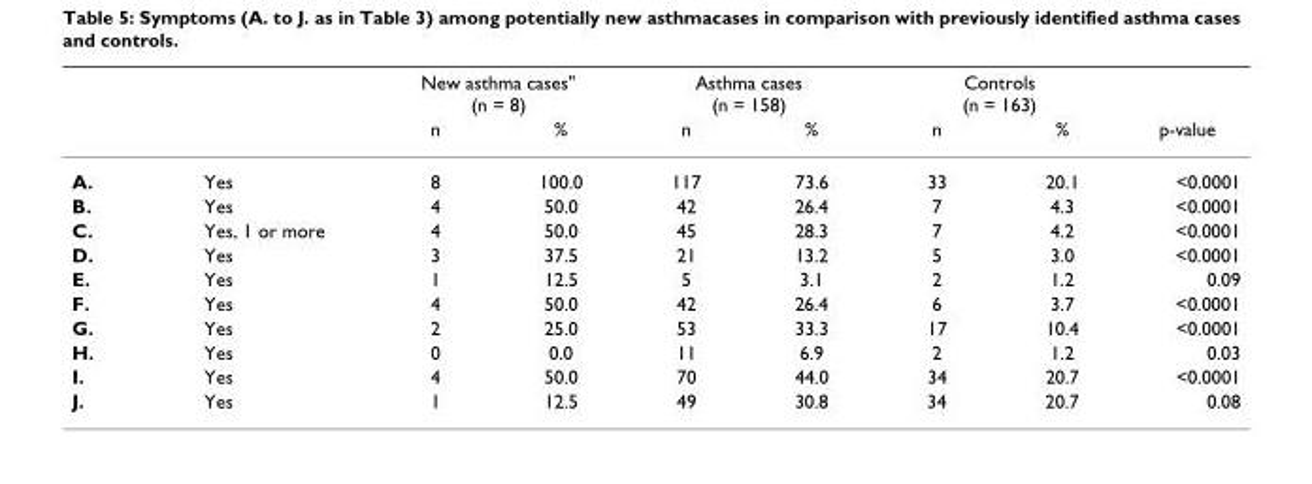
<table><thead><tr><td rowspan="2"></td><td rowspan="2"></td><td colspan="2">New asthma cases&quot; (n = 8)</td><td colspan="2">Asthma cases (n = 158)</td><td colspan="2">Controls (n = 163)</td><td rowspan="2">p-value</td></tr><tr><td>n</td><td>%</td><td>n</td><td>%</td><td>n</td><td>%</td></tr></thead><tbody><tr><td>A.</td><td>Yes</td><td>8</td><td>100.0</td><td>117</td><td>73.6</td><td>33</td><td>20.1</td><td>&lt;0.0001</td></tr><tr><td>B.</td><td>Yes</td><td>4</td><td>50.0</td><td>42</td><td>26.4</td><td>7</td><td>4.3</td><td>&lt;0.0001</td></tr><tr><td>C.</td><td>Yes, 1 or more</td><td>4</td><td>50.0</td><td>45</td><td>28.3</td><td>7</td><td>4.2</td><td>&lt;0.0001</td></tr><tr><td>D.</td><td>Yes</td><td>3</td><td>37.5</td><td>21</td><td>13.2</td><td>5</td><td>3.0</td><td>&lt;0.0001</td></tr><tr><td>E.</td><td>Yes</td><td>1</td><td>12.5</td><td>5</td><td>3.1</td><td>2</td><td>1.2</td><td>0.09</td></tr><tr><td>F.</td><td>Yes</td><td>4</td><td>50.0</td><td>42</td><td>26.4</td><td>6</td><td>3.7</td><td>&lt;0.0001</td></tr><tr><td>G.</td><td>Yes</td><td>2</td><td>25.0</td><td>53</td><td>33.3</td><td>17</td><td>10.4</td><td>&lt;0.0001</td></tr><tr><td>H.</td><td>Yes</td><td>0</td><td>0.0</td><td>11</td><td>6.9</td><td>2</td><td>1.2</td><td>0.03</td></tr><tr><td>I.</td><td>Yes</td><td>4</td><td>50.0</td><td>70</td><td>44.0</td><td>34</td><td>20.7</td><td>&lt;0.0001</td></tr><tr><td>J.</td><td>Yes</td><td>1</td><td>12.5</td><td>49</td><td>30.8</td><td>34</td><td>20.7</td><td>0.08</td></tr></tbody></table>